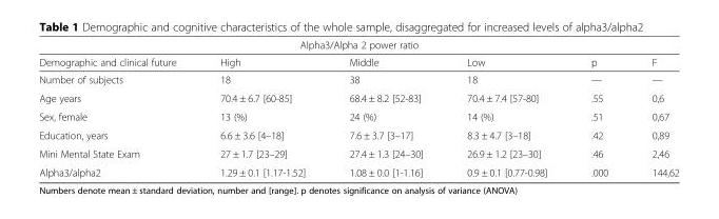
<table><thead><tr><td colspan="6">Alpha3/Alpha 2 power ratio</td></tr><tr><td>Demographic and clinical future</td><td>High</td><td>Middle</td><td>Low</td><td>p</td><td>F</td></tr></thead><tbody><tr><td>Number of subjects</td><td>18</td><td>38</td><td>18</td><td>—</td><td>—</td></tr><tr><td>Age years</td><td>70.4 ± 6.7 [60-85]</td><td>68.4 ± 8.2 [52-83]</td><td>70.4 ± 7.4 [57-80]</td><td>.55</td><td>0,6</td></tr><tr><td>Sex, female</td><td>13 (%)</td><td>24 (%)</td><td>14 (%)</td><td>.51</td><td>0,67</td></tr><tr><td>Education, years</td><td>6.6 ± 3.6 [4–18]</td><td>7.6 ± 3.7 [3–17]</td><td>8.3 ± 4.7 [3–18]</td><td>.42</td><td>0,89</td></tr><tr><td>Mini Mental State Exam</td><td>27 ± 1.7 [23–29]</td><td>27.4 ± 1.3 [24–30]</td><td>26.9 ± 1.2 [23–30]</td><td>.46</td><td>2,46</td></tr><tr><td>Alpha3/alpha2</td><td>1.29 ± 0.1 [1.17-1.52]</td><td>1.08 ± 0.0 [1-1.16]</td><td>0.9 ± 0.1 [0.77-0.98]</td><td>.000</td><td>144,62</td></tr></tbody></table>